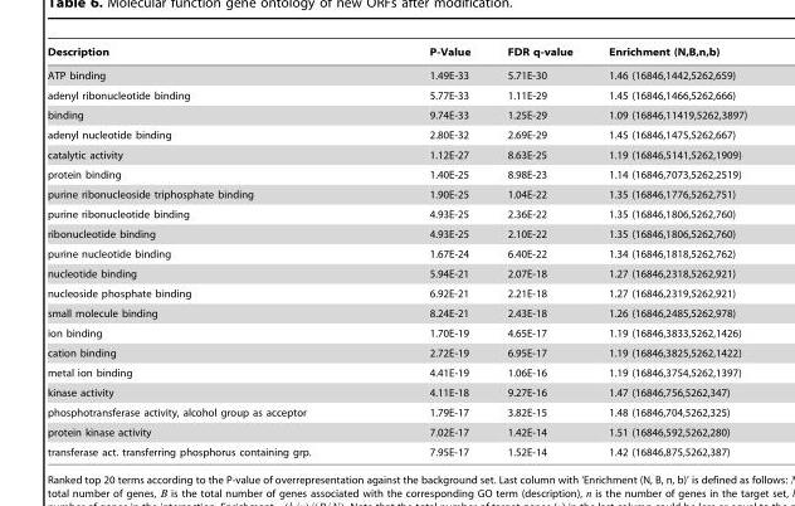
<table><thead><tr><td>Description</td><td>P-Value</td><td>FDR q-value</td><td>Enrichment (N,B,n,b)</td></tr></thead><tbody><tr><td>ATP binding</td><td>1.49E-33</td><td>5.71E-30</td><td>1.46 (16846,1442,5262,659)</td></tr><tr><td>adenyl ribonucleotide binding</td><td>5.77E-33</td><td>1.11E-29</td><td>1.45 (16846,1466,5262,666)</td></tr><tr><td>binding</td><td>9.74E-33</td><td>1.25E-29</td><td>1.09 (16846,11419,5262,3897)</td></tr><tr><td>adenyl nucleotide binding</td><td>2.80E-32</td><td>2.69E-29</td><td>1.45 (16846,1475,5262,667)</td></tr><tr><td>catalytic activity</td><td>1.12E-27</td><td>8.63E-25</td><td>1.19 (16846,5141,5262,1909)</td></tr><tr><td>protein binding</td><td>1.40E-25</td><td>8.98E-23</td><td>1.14 (16846,7073,5262,2519)</td></tr><tr><td>purine ribonucleoside triphosphate binding</td><td>1.90E-25</td><td>1.04E-22</td><td>1.35 (16846,1776,5262,751)</td></tr><tr><td>purine ribonucleotide binding</td><td>4.93E-25</td><td>2.36E-22</td><td>1.35 (16846,1806,5262,760)</td></tr><tr><td>ribonucleotide binding</td><td>4.93E-25</td><td>2.10E-22</td><td>1.35 (16846,1806,5262,760)</td></tr><tr><td>purine nucleotide binding</td><td>1.67E-24</td><td>6.40E-22</td><td>1.34 (16846,1818,5262,762)</td></tr><tr><td>nucleotide binding</td><td>5.94E-21</td><td>2.07E-18</td><td>1.27 (16846,2318,5262,921)</td></tr><tr><td>nucleoside phosphate binding</td><td>6.92E-21</td><td>2.21E-18</td><td>1.27 (16846,2319,5262,921)</td></tr><tr><td>small molecule binding</td><td>8.24E-21</td><td>2.43E-18</td><td>1.26 (16846,2485,5262,978)</td></tr><tr><td>ion binding</td><td>1.70E-19</td><td>4.65E-17</td><td>1.19 (16846,3833,5262,1426)</td></tr><tr><td>cation binding</td><td>2.72E-19</td><td>6.95E-17</td><td>1.19 (16846,3825,5262,1422)</td></tr><tr><td>metal ion binding</td><td>4.41E-19</td><td>1.06E-16</td><td>1.19 (16846,3754,5262,1397)</td></tr><tr><td>kinase activity</td><td>4.11E-18</td><td>9.27E-16</td><td>1.47 (16846,756,5262,347)</td></tr><tr><td>phosphotransferase activity, alcohol group as acceptor</td><td>1.79E-17</td><td>3.82E-15</td><td>1.48 (16846,704,5262,325)</td></tr><tr><td>protein kinase activity</td><td>7.02E-17</td><td>1.42E-14</td><td>1.51 (16846,592,5262,280)</td></tr><tr><td>transferase act. transferring phosphorus containing grp.</td><td>7.95E-17</td><td>1.52E-14</td><td>1.42 (16846,875,5262,387)</td></tr></tbody></table>